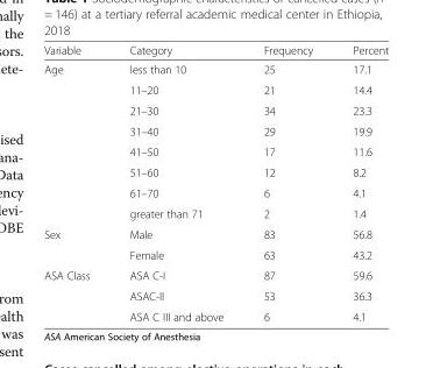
<table><thead><tr><td>Variable</td><td>Category</td><td>Frequency</td><td>Percent</td></tr></thead><tbody><tr><td rowspan="8">Age</td><td>less than 10</td><td>25</td><td>17.1</td></tr><tr><td>11–20</td><td>21</td><td>14.4</td></tr><tr><td>21–30</td><td>34</td><td>23.3</td></tr><tr><td>31–40</td><td>29</td><td>19.9</td></tr><tr><td>41–50</td><td>17</td><td>11.6</td></tr><tr><td>51–60</td><td>12</td><td>8.2</td></tr><tr><td>61–70</td><td>6</td><td>4.1</td></tr><tr><td>greater than 71</td><td>2</td><td>1.4</td></tr><tr><td rowspan="2">Sex</td><td>Male</td><td>83</td><td>56.8</td></tr><tr><td>Female</td><td>63</td><td>43.2</td></tr><tr><td rowspan="3">ASA Class</td><td>ASA C-I</td><td>87</td><td>59.6</td></tr><tr><td>ASAC-II</td><td>53</td><td>36.3</td></tr><tr><td>ASA C III and above</td><td>6</td><td>4.1</td></tr></tbody></table>